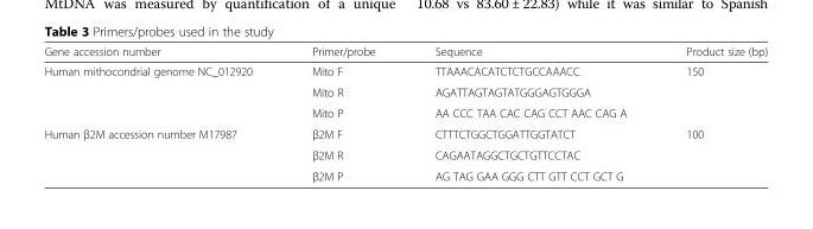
<table><thead><tr><td>Gene accession number</td><td>Primer/probe</td><td>Sequence</td><td>Product size (bp)</td></tr></thead><tbody><tr><td rowspan="3">Human mithocondrial genome NC_012920</td><td>Mito F</td><td>TTAAACACATCTCTGCCAAACC</td><td>150</td></tr><tr><td>Mito R</td><td>AGATTAGTAGTATGGGAGTGGGA</td><td rowspan="2"></td></tr><tr><td>Mito P</td><td>AA CCC TAA CAC CAG CCT AAC CAG A</td></tr><tr><td rowspan="3">Human β2M accession number M17987</td><td>β2M F</td><td>CTTTCTGGCTGGATTGGTATCT</td><td>100</td></tr><tr><td>β2M R</td><td>CAGAATAGGCTGCTGTTCCTAC</td><td rowspan="2"></td></tr><tr><td>β2M P</td><td>AG TAG GAA GGG CTT GTT CCT GCT G</td></tr></tbody></table>